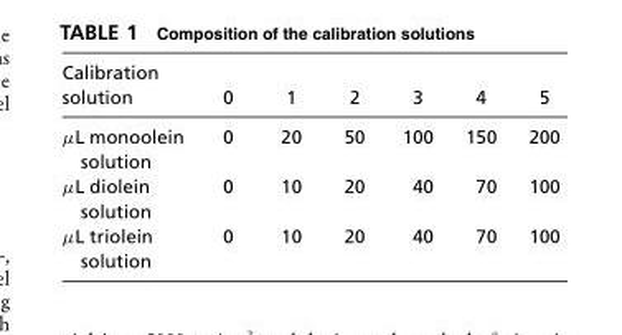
<table><thead><tr><td>Calibration solution</td><td>0</td><td>1</td><td>2</td><td>3</td><td>4</td><td>5</td></tr></thead><tbody><tr><td>µL monoolein solution</td><td>0</td><td>20</td><td>50</td><td>100</td><td>150</td><td>200</td></tr><tr><td>µL diolein solution</td><td>0</td><td>10</td><td>20</td><td>40</td><td>70</td><td>100</td></tr><tr><td>µL triolein solution</td><td>0</td><td>10</td><td>20</td><td>40</td><td>70</td><td>100</td></tr></tbody></table>